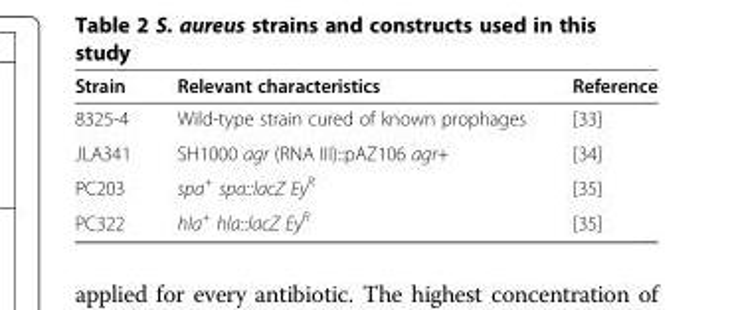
<table><thead><tr><td>Strain</td><td>Relevant characteristics</td><td>Reference</td></tr></thead><tbody><tr><td>8325-4</td><td>Wild-type strain cured of known prophages</td><td>[33]</td></tr><tr><td>JLA341</td><td>SH1000 agr (RNA III)::pAZ106 agr+</td><td>[34]</td></tr><tr><td>PC203</td><td>spa<sup>+</sup> spa::lacZ Ey<sup>R</sup></td><td>[35]</td></tr><tr><td>PC322</td><td>hla<sup>+</sup> hla::lacZ Ey<sup>R</sup></td><td>[35]</td></tr></tbody></table>